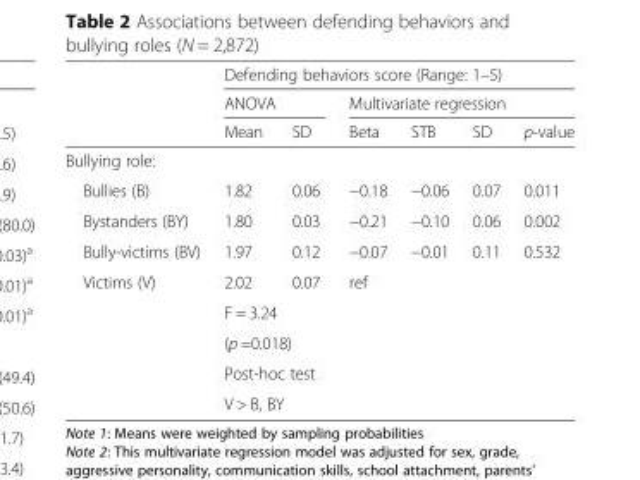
<table><thead><tr><td rowspan="3"></td><td colspan="6">Defending behaviors score (Range: 1–5)</td></tr><tr><td colspan="2">ANOVA</td><td colspan="4">Multivariate regression</td></tr><tr><td>Mean</td><td>SD</td><td>Beta</td><td>STB</td><td>SD</td><td>p-value</td></tr></thead><tbody><tr><td colspan="7">Bullying role:</td></tr><tr><td>Bullies (B)</td><td>1.82</td><td>0.06</td><td>−0.18</td><td>−0.06</td><td>0.07</td><td>0.011</td></tr><tr><td>Bystanders (BY)</td><td>1.80</td><td>0.03</td><td>−0.21</td><td>−0.10</td><td>0.06</td><td>0.002</td></tr><tr><td>Bully-victims (BV)</td><td>1.97</td><td>0.12</td><td>−0.07</td><td>−0.01</td><td>0.11</td><td>0.532</td></tr><tr><td rowspan="5">Victims (V)</td><td>2.02</td><td>0.07</td><td>ref</td><td></td><td></td><td></td></tr><tr><td colspan="2">F = 3.24</td><td rowspan="4" colspan="4"></td></tr><tr><td colspan="2">(p =0.018)</td></tr><tr><td colspan="2">Post-hoc test</td></tr><tr><td colspan="2">V &gt; B, BY</td></tr></tbody></table>